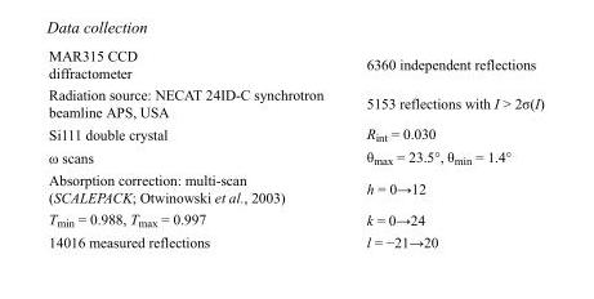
<table><tbody><tr><td>MAR315 CCD diffractometer</td><td>6360 independent reflections</td></tr><tr><td>Radiation source: NECAT 24ID-C synchrotron beamline APS, USA</td><td>5153 reflections with I &gt; 2σ(I)</td></tr><tr><td>Si111 double crystal</td><td>R<sub>int</sub> = 0.030</td></tr><tr><td>ω scans</td><td>θ<sub>max</sub> = 23.5°, θ<sub>min</sub> = 1.4°</td></tr><tr><td>Absorption correction: multi-scan (SCALEPACK; Otwinowski et al., 2003)</td><td>h = 0→12</td></tr><tr><td>T<sub>min</sub> = 0.988, T<sub>max</sub> = 0.997</td><td>k = 0→24</td></tr><tr><td>14016 measured reflections</td><td>l = −21→20</td></tr></tbody></table>